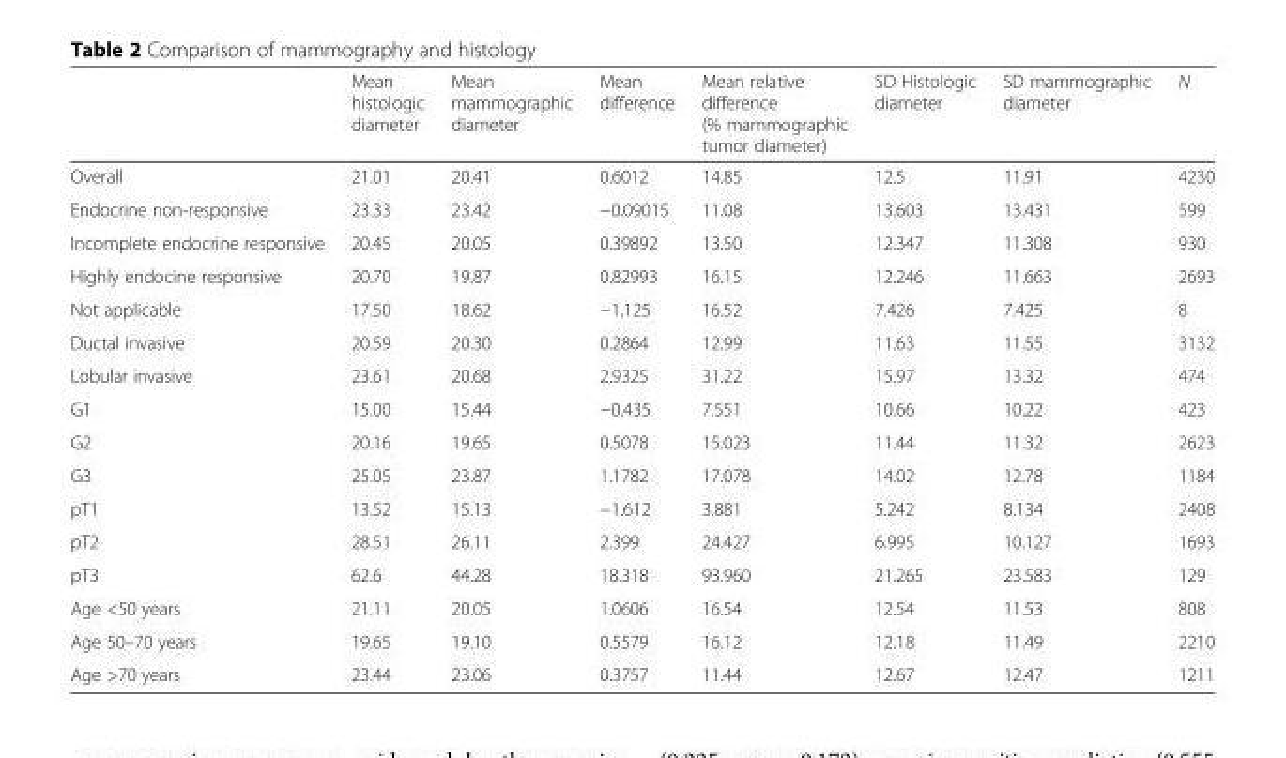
<table><thead><tr><td></td><td>Mean histologic diameter</td><td>Mean mammographic diameter</td><td>Mean difference</td><td>Mean relative difference (% mammographic tumor diameter)</td><td>SD Histologic diameter</td><td>SD mammographic diameter</td><td>N</td></tr></thead><tbody><tr><td>Overall</td><td>21.01</td><td>20.41</td><td>0.6012</td><td>14.85</td><td>12.5</td><td>11.91</td><td>4230</td></tr><tr><td>Endocrine non-responsive</td><td>23.33</td><td>23.42</td><td>−0.09015</td><td>11.08</td><td>13.603</td><td>13.431</td><td>599</td></tr><tr><td>Incomplete endocrine responsive</td><td>20.45</td><td>20.05</td><td>0.39892</td><td>13.50</td><td>12.347</td><td>11.308</td><td>930</td></tr><tr><td>Highly endocine responsive</td><td>20.70</td><td>19.87</td><td>0.82993</td><td>16.15</td><td>12.246</td><td>11.663</td><td>2693</td></tr><tr><td>Not applicable</td><td>17.50</td><td>18.62</td><td>−1.125</td><td>16.52</td><td>7.426</td><td>7.425</td><td>8</td></tr><tr><td>Ductal invasive</td><td>20.59</td><td>20.30</td><td>0.2864</td><td>12.99</td><td>11.63</td><td>11.55</td><td>3132</td></tr><tr><td>Lobular invasive</td><td>23.61</td><td>20.68</td><td>2.9325</td><td>31.22</td><td>15.97</td><td>13.32</td><td>474</td></tr><tr><td>G1</td><td>15.00</td><td>15.44</td><td>−0.435</td><td>7.551</td><td>10.66</td><td>10.22</td><td>423</td></tr><tr><td>G2</td><td>20.16</td><td>19.65</td><td>0.5078</td><td>15.023</td><td>11.44</td><td>11.32</td><td>2623</td></tr><tr><td>G3</td><td>25.05</td><td>23.87</td><td>1.1782</td><td>17.078</td><td>14.02</td><td>12.78</td><td>1184</td></tr><tr><td>pT1</td><td>13.52</td><td>15.13</td><td>−1.612</td><td>3.881</td><td>5.242</td><td>8.134</td><td>2408</td></tr><tr><td>pT2</td><td>28.51</td><td>26.11</td><td>2.399</td><td>24.427</td><td>6.995</td><td>10.127</td><td>1693</td></tr><tr><td>pT3</td><td>62.6</td><td>44.28</td><td>18.318</td><td>93.960</td><td>21.265</td><td>23.583</td><td>129</td></tr><tr><td>Age &lt;50 years</td><td>21.11</td><td>20.05</td><td>1.0606</td><td>16.54</td><td>12.54</td><td>11.53</td><td>808</td></tr><tr><td>Age 50–70 years</td><td>19.65</td><td>19.10</td><td>0.5579</td><td>16.12</td><td>12.18</td><td>11.49</td><td>2210</td></tr><tr><td>Age &gt;70 years</td><td>23.44</td><td>23.06</td><td>0.3757</td><td>11.44</td><td>12.67</td><td>12.47</td><td>1211</td></tr></tbody></table>